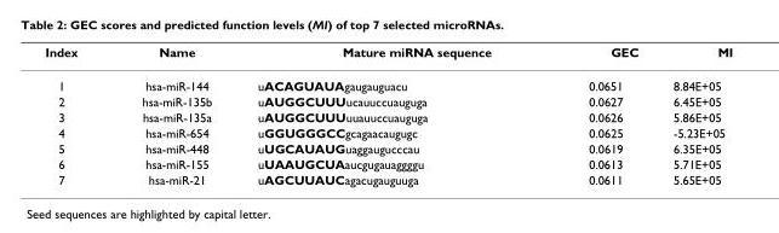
<table><thead><tr><td>Index</td><td>Name</td><td>Mature miRNA sequence</td><td>GEC</td><td>MI</td></tr></thead><tbody><tr><td>1</td><td>hsa-miR-144</td><td>uACAGUAUAgaugauguacu</td><td>0.0651</td><td>8.84E+05</td></tr><tr><td>2</td><td>hsa-miR-135b</td><td>uAUGGCUUUucauuccuauguga</td><td>0.0627</td><td>6.45E+05</td></tr><tr><td>3</td><td>hsa-miR-135a</td><td>uAUGGCUUUuuauuccuauguga</td><td>0.0626</td><td>5.86E+05</td></tr><tr><td>4</td><td>hsa-miR-654</td><td>uGGUGGGCCgcagaacaugugc</td><td>0.0625</td><td>-5.23E+05</td></tr><tr><td>5</td><td>hsa-miR-448</td><td>uUGCAUAUGuaggaugucccau</td><td>0.0619</td><td>6.35E+05</td></tr><tr><td>6</td><td>hsa-miR-155</td><td>uUAAUGCUAaucgugauaggggu</td><td>0.0613</td><td>5.71E+05</td></tr><tr><td>7</td><td>hsa-miR-21</td><td>uAGCUUAUCagacugauguuga</td><td>0.0611</td><td>5.65E+05</td></tr></tbody></table>